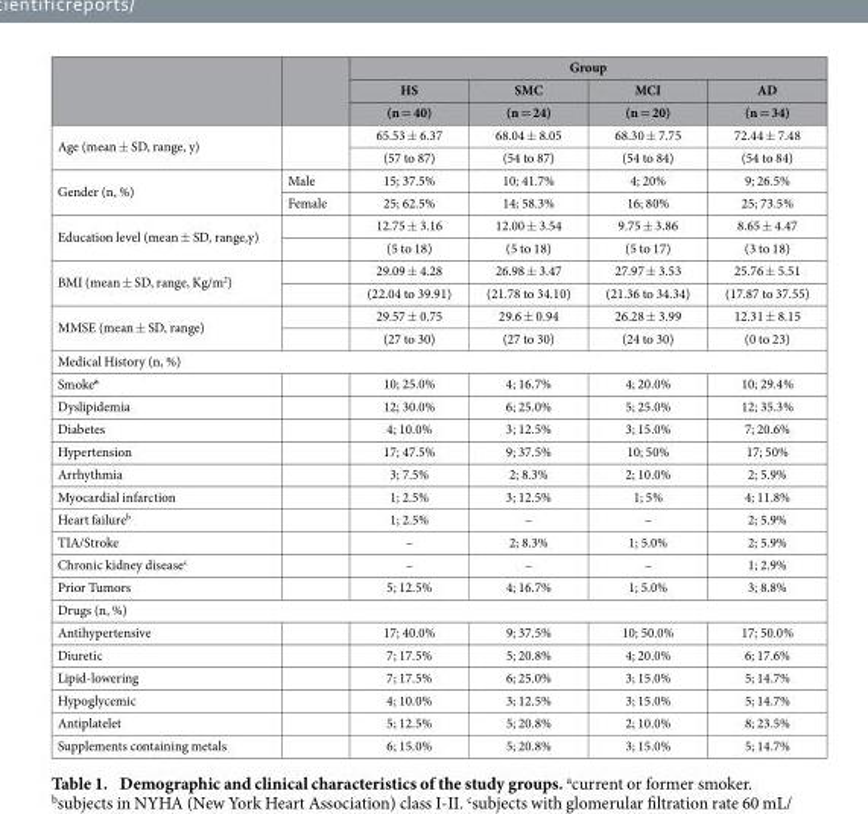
<table><thead><tr><td rowspan="3"></td><td rowspan="3"></td><td colspan="4">Group</td></tr><tr><td rowspan="2">HS (n = 40)</td><td rowspan="2">SMC (n = 24)</td><td rowspan="2">MCI (n = 20)</td><td rowspan="2">AD (n = 34)</td></tr><tr></tr></thead><tbody><tr><td rowspan="2">Age (mean ± SD, range, y)</td><td rowspan="2"></td><td>65.53 ± 6.37</td><td>68.04 ± 8.05</td><td>68.30 ± 7.75</td><td>72.44 ± 7.48</td></tr><tr><td>(57 to 87)</td><td>(54 to 87)</td><td>(54 to 84)</td><td>(54 to 84)</td></tr><tr><td rowspan="2">Gender (n, %)</td><td>Male</td><td>15; 37.5%</td><td>10; 41.7%</td><td>4; 20%</td><td>9; 26.5%</td></tr><tr><td>Female</td><td>25; 62.5%</td><td>14; 58.3%</td><td>16; 80%</td><td>25; 73.5%</td></tr><tr><td rowspan="2">Education level (mean ± SD, range,y)</td><td></td><td>12.75 ± 3.16</td><td>12.00 ± 3.54</td><td>9.75 ± 3.86</td><td>8.65 ± 4.47</td></tr><tr><td></td><td>(5 to 18)</td><td>(5 to 18)</td><td>(5 to 17)</td><td>(3 to 18)</td></tr><tr><td rowspan="2">BMI (mean ± SD, range, Kg/m<sup>2</sup>)</td><td></td><td>29.09 ± 4.28</td><td>26.98 ± 3.47</td><td>27.97 ± 3.53</td><td>25.76 ± 5.51</td></tr><tr><td></td><td>(22.04 to 39.91)</td><td>(21.78 to 34.10)</td><td>(21.36 to 34.34)</td><td>(17.87 to 37.55)</td></tr><tr><td rowspan="2">MMSE (mean ± SD, range)</td><td></td><td>29.57 ± 0.75</td><td>29.6 ± 0.94</td><td>26.28 ± 3.99</td><td>12.31 ± 8.15</td></tr><tr><td></td><td>(27 to 30)</td><td>(27 to 30)</td><td>(24 to 30)</td><td>(0 to 23)</td></tr><tr><td colspan="6">Medical History (n, %)</td></tr><tr><td>Smoke<sup>a</sup></td><td></td><td>10; 25.0%</td><td>4; 16.7%</td><td>4; 20.0%</td><td>10; 29.4%</td></tr><tr><td>Dyslipidemia</td><td></td><td>12; 30.0%</td><td>6; 25.0%</td><td>5; 25.0%</td><td>12; 35.3%</td></tr><tr><td>Diabetes</td><td></td><td>4; 10.0%</td><td>3; 12.5%</td><td>3; 15.0%</td><td>7; 20.6%</td></tr><tr><td>Hypertension</td><td></td><td>17; 47.5%</td><td>9; 37.5%</td><td>10; 50%</td><td>17; 50%</td></tr><tr><td>Arrhythmia</td><td></td><td>3; 7.5%</td><td>2; 8.3%</td><td>2; 10.0%</td><td>2; 5.9%</td></tr><tr><td>Myocardial infarction</td><td></td><td>1; 2.5%</td><td>3; 12.5%</td><td>1; 5%</td><td>4; 11.8%</td></tr><tr><td>Heart failure<sup>b</sup></td><td></td><td>1; 2.5%</td><td>–</td><td>–</td><td>2; 5.9%</td></tr><tr><td>TIA/Stroke</td><td></td><td>–</td><td>2; 8.3%</td><td>1; 5.0%</td><td>2; 5.9%</td></tr><tr><td>Chronic kidney disease<sup>c</sup></td><td></td><td>–</td><td>–</td><td>–</td><td>1; 2.9%</td></tr><tr><td>Prior Tumors</td><td></td><td>5; 12.5%</td><td>4; 16.7%</td><td>1; 5.0%</td><td>3; 8.8%</td></tr><tr><td colspan="6">Drugs (n, %)</td></tr><tr><td>Antihypertensive</td><td></td><td>17; 40.0%</td><td>9; 37.5%</td><td>10; 50.0%</td><td>17; 50.0%</td></tr><tr><td>Diuretic</td><td></td><td>7; 17.5%</td><td>5; 20.8%</td><td>4; 20.0%</td><td>6; 17.6%</td></tr><tr><td>Lipid-lowering</td><td></td><td>7; 17.5%</td><td>6; 25.0%</td><td>3; 15.0%</td><td>5; 14.7%</td></tr><tr><td>Hypoglycemic</td><td></td><td>4; 10.0%</td><td>3; 12.5%</td><td>3; 15.0%</td><td>5; 14.7%</td></tr><tr><td>Antiplatelet</td><td></td><td>5; 12.5%</td><td>5; 20.8%</td><td>2; 10.0%</td><td>8; 23.5%</td></tr><tr><td>Supplements containing metals</td><td></td><td>6; 15.0%</td><td>5; 20.8%</td><td>3; 15.0%</td><td>5; 14.7%</td></tr></tbody></table>